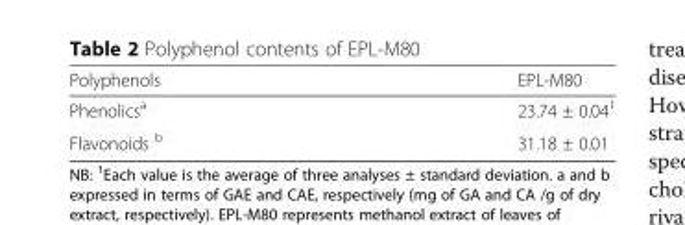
<table><thead><tr><td>Polyphenols</td><td>EPL-M80</td></tr></thead><tbody><tr><td>Phenolics<sup>a</sup></td><td>23.74 ± 0.04<sup>1</sup></td></tr><tr><td>Flavonoids <sup>b</sup></td><td>31.18 ± 0.01</td></tr></tbody></table>